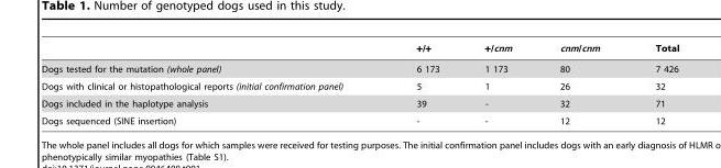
<table><thead><tr><td></td><td>+/+</td><td>+/cnm</td><td>cnm/cnm</td><td>Total</td></tr></thead><tbody><tr><td>Dogs tested for the mutation (whole panel)</td><td>6 173</td><td>1 173</td><td>80</td><td>7 426</td></tr><tr><td>Dogs with clinical or histopathological reports (initial confirmation panel)</td><td>5</td><td>1</td><td>26</td><td>32</td></tr><tr><td>Dogs included in the haplotype analysis</td><td>39</td><td>-</td><td>32</td><td>71</td></tr><tr><td>Dogs sequenced (SINE insertion)</td><td>-</td><td>-</td><td>12</td><td>12</td></tr></tbody></table>